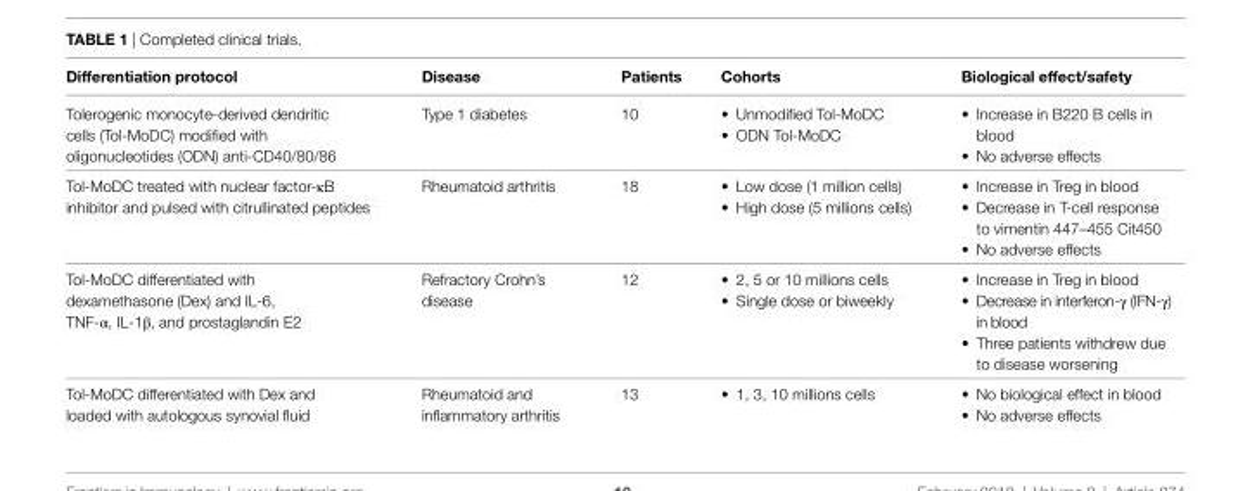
<table><thead><tr><td>Differentiation protocol</td><td>Disease</td><td>Patients</td><td>Cohorts</td><td>biological effect/safety</td></tr></thead><tbody><tr><td>Tolerogenic monocyte-derived dendritic cells (Tol-MoDC) modified with oligonucleotides (ODN) anti-CD40/80/86</td><td>Type 1 diabetes</td><td>10</td><td>• Unmodified Tol-MoDC • ODN Tol-MoDC</td><td>• Increase in B220 B cells in blood • No adverse effects</td></tr><tr><td>Tol-MoDC treated with nuclear factor-κB inhibitor and pulsed with citrullinated peptides</td><td>Rheumatoid arthritis</td><td>18</td><td>• Low dose (1 million cells) • High dose (5 millions cells)</td><td>• Increase in Treg in blood • Decrease in T-cell response to vimentin 447–455 Cit450 • No adverse effects</td></tr><tr><td>Tol-MoDC differentiated with dexamethasone (Dex) and IL-6, TNF-α, IL-1β, and prostaglandin E2</td><td>Refractory Crohn’s disease</td><td>12</td><td>• 2, 5 or 10 millions cells • Single dose or biweekly</td><td>• Increase in Treg in blood • Decrease in interferon-γ (IFN-γ) in blood • Three patients withdrew due to disease worsening</td></tr><tr><td>Tol-MoDC differentiated with Dex and loaded with autologous synovial fluid</td><td>Rheumatoid and inflammatory arthritis</td><td>13</td><td>• 1, 3, 10 millions cells</td><td>• No biological effect in blood • No adverse effects</td></tr></tbody></table>